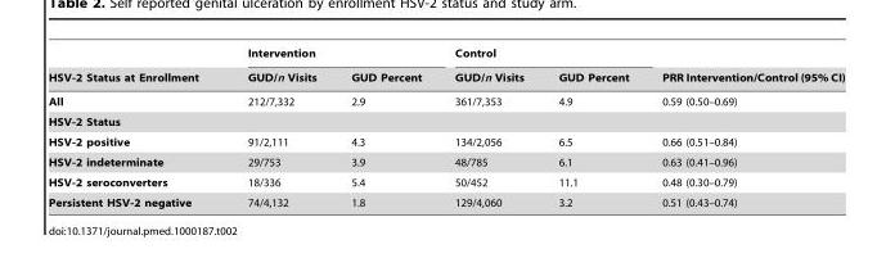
<table><thead><tr><td rowspan="2">HSV-2 Status at Enrollment</td><td colspan="2">Intervention</td><td colspan="2">Control</td><td rowspan="2">PRR Intervention/Control (95% CI)</td></tr><tr><td>GUD/n Visits</td><td>GUD Percent</td><td>GUD/n Visits</td><td>GUD Percent</td></tr></thead><tbody><tr><td>All</td><td>212/7,332</td><td>2.9</td><td>361/7,353</td><td>4.9</td><td>0.59 (0.50–0.69)</td></tr><tr><td colspan="6">HSV-2 Status</td></tr><tr><td>HSV-2 positive</td><td>91/2,111</td><td>4.3</td><td>134/2,056</td><td>6.5</td><td>0.66 (0.51–0.84)</td></tr><tr><td>HSV-2 indeterminate</td><td>29/753</td><td>3.9</td><td>48/785</td><td>6.1</td><td>0.63 (0.41–0.96)</td></tr><tr><td>HSV-2 seroconverters</td><td>18/336</td><td>5.4</td><td>50/452</td><td>11.1</td><td>0.48 (0.30–0.79)</td></tr><tr><td>Persistent HSV-2 negative</td><td>74/4,132</td><td>1.8</td><td>129/4,060</td><td>3.2</td><td>0.51 (0.43–0.74)</td></tr></tbody></table>